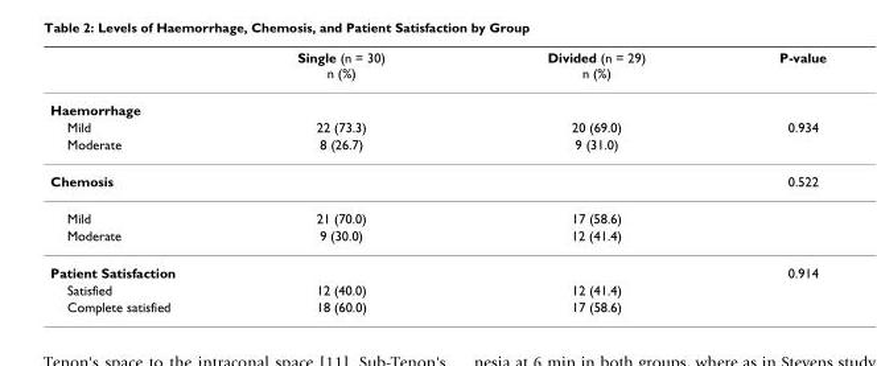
<table><thead><tr><td></td><td>Single (n = 30) n (%)</td><td>Divided (n = 29) n (%)</td><td>P-value</td></tr></thead><tbody><tr><td colspan="4">Haemorrhage</td></tr><tr><td>Mild</td><td>22 (73.3)</td><td>20 (69.0)</td><td>0.934</td></tr><tr><td>Moderate</td><td>8 (26.7)</td><td>9 (31.0)</td><td></td></tr><tr><td>Chemosis</td><td></td><td></td><td>0.522</td></tr><tr><td>Mild</td><td>21 (70.0)</td><td>17 (58.6)</td><td></td></tr><tr><td>Moderate</td><td>9 (30.0)</td><td>12 (41.4)</td><td></td></tr><tr><td>Patient Satisfaction</td><td></td><td></td><td>0.914</td></tr><tr><td>Satisfied</td><td>12 (40.0)</td><td>12 (41.4)</td><td></td></tr><tr><td>Complete satisfied</td><td>18 (60.0)</td><td>17 (58.6)</td><td></td></tr></tbody></table>